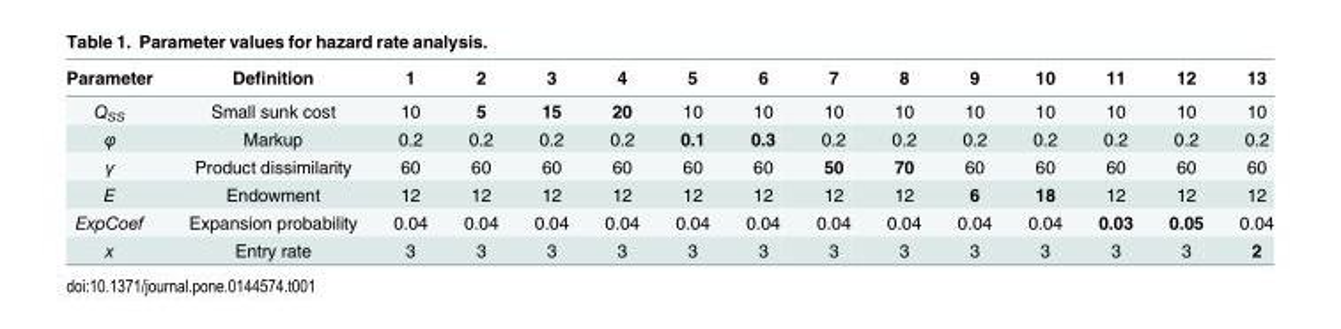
<table><thead><tr><td>Parameter</td><td>Definition</td><td>1</td><td>2</td><td>3</td><td>4</td><td>5</td><td>6</td><td>7</td><td>8</td><td>9</td><td>10</td><td>11</td><td>12</td><td>13</td></tr></thead><tbody><tr><td>Q<sub>SS</sub></td><td>Small sunk cost</td><td>10</td><td>5</td><td>15</td><td>20</td><td>10</td><td>10</td><td>10</td><td>10</td><td>10</td><td>10</td><td>10</td><td>10</td><td>10</td></tr><tr><td>φ</td><td>Markup</td><td>0.2</td><td>0.2</td><td>0.2</td><td>0.2</td><td>0.1</td><td>0.3</td><td>0.2</td><td>0.2</td><td>0.2</td><td>0.2</td><td>0.2</td><td>0.2</td><td>0.2</td></tr><tr><td>γ</td><td>Product dissimilarity</td><td>60</td><td>60</td><td>60</td><td>60</td><td>60</td><td>60</td><td>50</td><td>70</td><td>60</td><td>60</td><td>60</td><td>60</td><td>60</td></tr><tr><td>E</td><td>Endowment</td><td>12</td><td>12</td><td>12</td><td>12</td><td>12</td><td>12</td><td>12</td><td>12</td><td>6</td><td>18</td><td>12</td><td>12</td><td>12</td></tr><tr><td>ExpCoef</td><td>Expansion probability</td><td>0.04</td><td>0.04</td><td>0.04</td><td>0.04</td><td>0.04</td><td>0.04</td><td>0.04</td><td>0.04</td><td>0.04</td><td>0.04</td><td>0.03</td><td>0.05</td><td>0.04</td></tr><tr><td>x</td><td>Entry rate</td><td>3</td><td>3</td><td>3</td><td>3</td><td>3</td><td>3</td><td>3</td><td>3</td><td>3</td><td>3</td><td>3</td><td>3</td><td>2</td></tr></tbody></table>